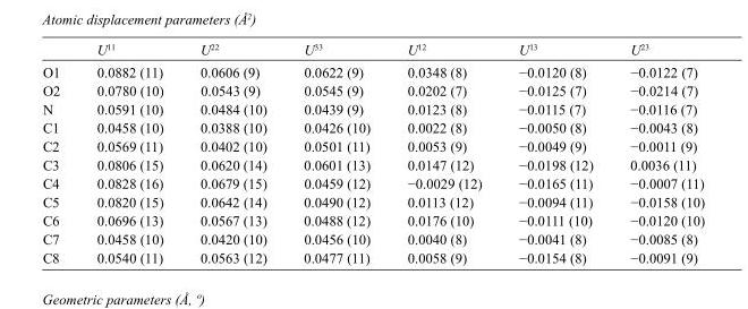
<table><thead><tr><td></td><td>U<sup>11</sup></td><td>U<sup>22</sup></td><td>U<sup>33</sup></td><td>U<sup>12</sup></td><td>U<sup>13</sup></td><td>U<sup>23</sup></td></tr></thead><tbody><tr><td>O1</td><td>0.0882 (11)</td><td>0.0606 (9)</td><td>0.0622 (9)</td><td>0.0348 (8)</td><td>−0.0120 (8)</td><td>−0.0122 (7)</td></tr><tr><td>O2</td><td>0.0780 (10)</td><td>0.0543 (9)</td><td>0.0545 (9)</td><td>0.0202 (7)</td><td>−0.0125 (7)</td><td>−0.0214 (7)</td></tr><tr><td>N</td><td>0.0591 (10)</td><td>0.0484 (10)</td><td>0.0439 (9)</td><td>0.0123 (8)</td><td>−0.0115 (7)</td><td>−0.0116 (7)</td></tr><tr><td>C1</td><td>0.0458 (10)</td><td>0.0388 (10)</td><td>0.0426 (10)</td><td>0.0022 (8)</td><td>−0.0050 (8)</td><td>−0.0043 (8)</td></tr><tr><td>C2</td><td>0.0569 (11)</td><td>0.0402 (10)</td><td>0.0501 (11)</td><td>0.0053 (9)</td><td>−0.0049 (9)</td><td>−0.0011 (9)</td></tr><tr><td>C3</td><td>0.0806 (15)</td><td>0.0620 (14)</td><td>0.0601 (13)</td><td>0.0147 (12)</td><td>−0.0198 (12)</td><td>0.0036 (11)</td></tr><tr><td>C4</td><td>0.0828 (16)</td><td>0.0679 (15)</td><td>0.0459 (12)</td><td>−0.0029 (12)</td><td>−0.0165 (11)</td><td>−0.0007 (11)</td></tr><tr><td>C5</td><td>0.0820 (15)</td><td>0.0642 (14)</td><td>0.0490 (12)</td><td>0.0113 (12)</td><td>−0.0094 (11)</td><td>−0.0158 (10)</td></tr><tr><td>C6</td><td>0.0696 (13)</td><td>0.0567 (13)</td><td>0.0488 (12)</td><td>0.0176 (10)</td><td>−0.0111 (10)</td><td>−0.0120 (10)</td></tr><tr><td>C7</td><td>0.0458 (10)</td><td>0.0420 (10)</td><td>0.0456 (10)</td><td>0.0040 (8)</td><td>−0.0041 (8)</td><td>−0.0085 (8)</td></tr><tr><td>C8</td><td>0.0540 (11)</td><td>0.0563 (12)</td><td>0.0477 (11)</td><td>0.0058 (9)</td><td>−0.0154 (8)</td><td>−0.0091 (9)</td></tr></tbody></table>